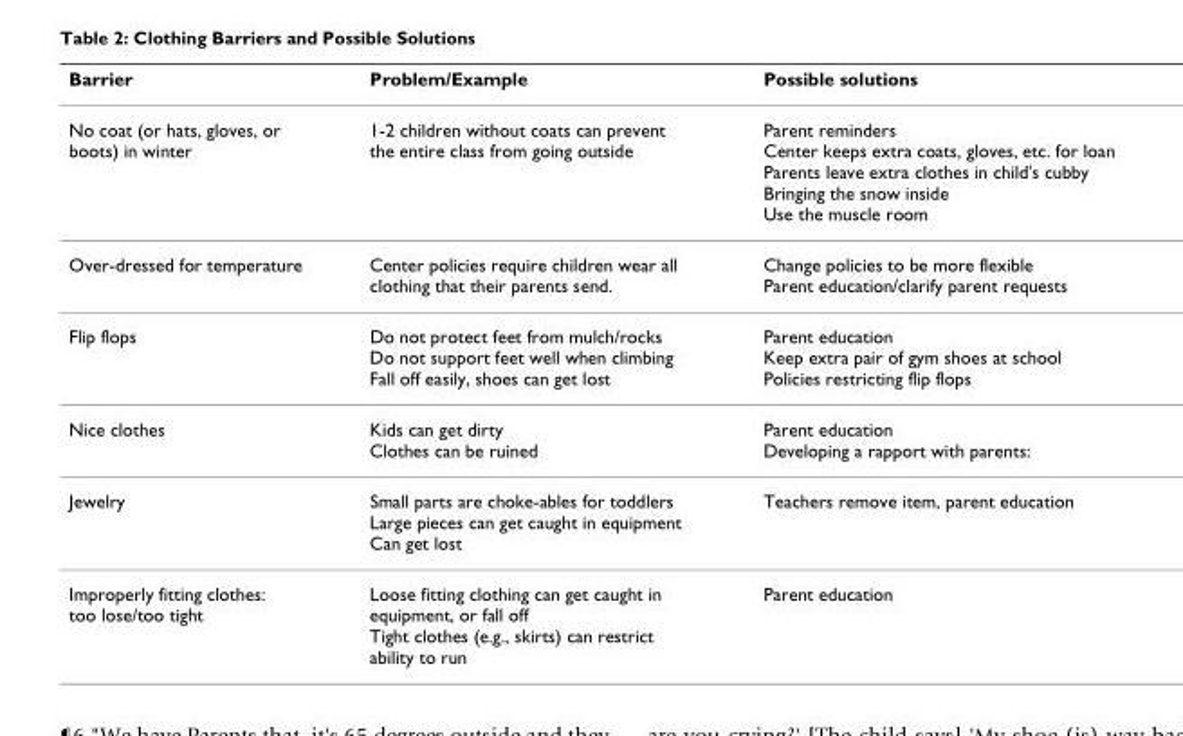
<table><thead><tr><td>Barrier</td><td>Problem/Example</td><td>Possible solutions</td></tr></thead><tbody><tr><td>No coat (or hats, gloves, or boots) in winter</td><td>1-2 children without coats can prevent the entire class from going outside</td><td>Parent reminders Center keeps extra coats, gloves, etc. for loan Parents leave extra clothes in child&#x27;s cubby Bringing the snow inside Use the muscle room</td></tr><tr><td>Over-dressed for temperature</td><td>Center policies require children wear all clothing that their parents send.</td><td>Change policies to be more flexible Parent education/clarify parent requests</td></tr><tr><td>Flip flops</td><td>Do not protect feet from mulch/rocks Do not support feet well when climbing Fall off easily, shoes can get lost</td><td>Parent education Keep extra pair of gym shoes at school Policies restricting flip flops</td></tr><tr><td>Nice clothes</td><td>Kids can get dirty Clothes can be ruined</td><td>Parent education Developing a rapport with parents:</td></tr><tr><td>Jewelry</td><td>Small parts are choke-ables for toddlers Large pieces can get caught in equipment Can get lost</td><td>Teachers remove item, parent education</td></tr><tr><td>Improperly fitting clothes: too lose/too tight</td><td>Loose fitting clothing can get caught in equipment, or fall off Tight clothes (e.g., skirts) can restrict ability to run</td><td>Parent education</td></tr></tbody></table>